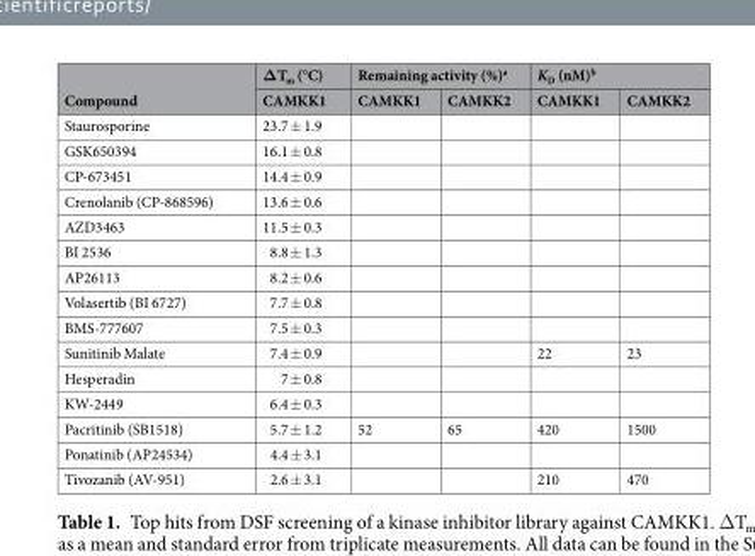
<table><thead><tr><td rowspan="2">Compound</td><td rowspan="2">ΔT<sub>m</sub> (°C) CAMKK1</td><td colspan="2">Remaining activity (%)<sup>a</sup></td><td colspan="2">K<sub>D</sub> (nM)<sup>b</sup></td></tr><tr><td>CAMKK1</td><td>CAMKK2</td><td>CAMKK1</td><td>CAMKK2</td></tr></thead><tbody><tr><td>Staurosporine</td><td>23.7 ± 1.9</td><td></td><td></td><td></td><td></td></tr><tr><td>GSK650394</td><td>16.1 ± 0.8</td><td></td><td></td><td></td><td></td></tr><tr><td>CP-673451</td><td>14.4 ± 0.9</td><td></td><td></td><td></td><td></td></tr><tr><td>Crenolanib (CP-868596)</td><td>13.6 ± 0.6</td><td></td><td></td><td></td><td></td></tr><tr><td>AZD3463</td><td>11.5 ± 0.3</td><td></td><td></td><td></td><td></td></tr><tr><td>BI 2536</td><td>8.8 ± 1.3</td><td></td><td></td><td></td><td></td></tr><tr><td>AP26113</td><td>8.2 ± 0.6</td><td></td><td></td><td></td><td></td></tr><tr><td>Volasertib (BI 6727)</td><td>7.7 ± 0.8</td><td></td><td></td><td></td><td></td></tr><tr><td>BMS-777607</td><td>7.5 ± 0.3</td><td></td><td></td><td></td><td></td></tr><tr><td>Sunitinib Malate</td><td>7.4 ± 0.9</td><td></td><td></td><td>22</td><td>23</td></tr><tr><td>Hesperadin</td><td>7 ± 0.8</td><td></td><td></td><td></td><td></td></tr><tr><td>KW-2449</td><td>6.4 ± 0.3</td><td></td><td></td><td></td><td></td></tr><tr><td>Pacritinib (SB1518)</td><td>5.7 ± 1.2</td><td>52</td><td>65</td><td>420</td><td>1500</td></tr><tr><td>Ponatinib (AP24534)</td><td>4.4 ± 3.1</td><td></td><td></td><td></td><td></td></tr><tr><td>Tivozanib (AV-951)</td><td>2.6 ± 3.1</td><td></td><td></td><td>210</td><td>470</td></tr></tbody></table>